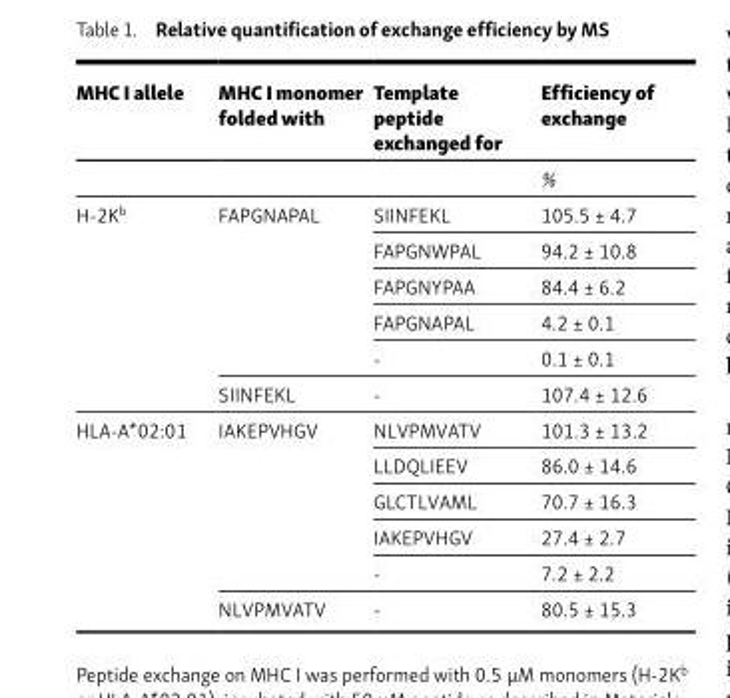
<table><thead><tr><td>MHC I allele</td><td>MHC I monomer folded with</td><td>Template peptide exchanged for</td><td>Efficiency of exchange</td></tr></thead><tbody><tr><td></td><td></td><td></td><td>%</td></tr><tr><td rowspan="6">H-2K<sup>b</sup></td><td rowspan="5">FAP GNA PAL</td><td>SII NFE KL</td><td>105.5 ± 4.7</td></tr><tr><td>FAP GNW PAL</td><td>94.2 ± 10.8</td></tr><tr><td>FAP GNY PAA</td><td>84.4 ± 6.2</td></tr><tr><td>FAP GNA PAL</td><td>4.2 ± 0.1</td></tr><tr><td>-</td><td>0.1 ± 0.1</td></tr><tr><td>SII NFE KL</td><td>-</td><td>107.4 ± 12.6</td></tr><tr><td rowspan="6">HLA-A*02:01</td><td rowspan="5">IAK EPV HGV</td><td>NLV PMV ATV</td><td>101.3 ± 13.2</td></tr><tr><td>LLD QLI EEV</td><td>86.0 ± 14.6</td></tr><tr><td>GLC TLV AML</td><td>70.7 ± 16.3</td></tr><tr><td>IAK EPV HGV</td><td>27.4 ± 2.7</td></tr><tr><td>-</td><td>7.2 ± 2.2</td></tr><tr><td>NLV PMV ATV</td><td>-</td><td>80.5 ± 15.3</td></tr></tbody></table>